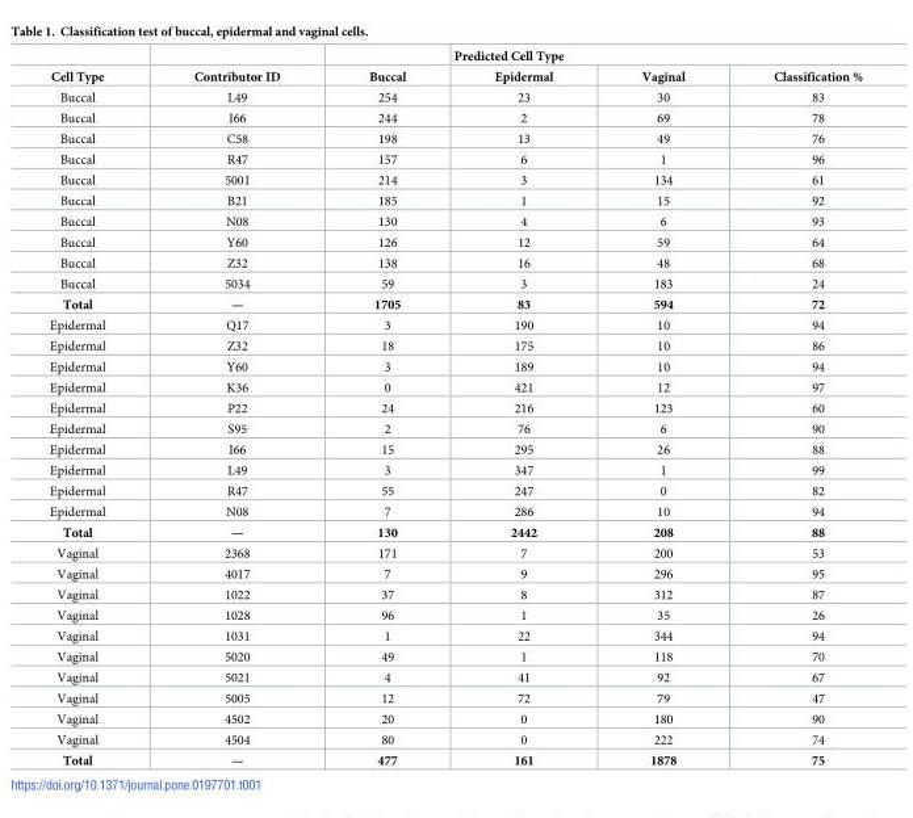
<table><thead><tr><td rowspan="2">Cell Type</td><td rowspan="2">Contributor ID</td><td rowspan="2">Buccal</td><td colspan="3">Predicted Cell Type</td></tr><tr><td>Epidermal</td><td>Vaginal</td><td>Classification %</td></tr></thead><tbody><tr><td>Buccal</td><td>L49</td><td>254</td><td>23</td><td>30</td><td>83</td></tr><tr><td>Buccal</td><td>I66</td><td>244</td><td>2</td><td>69</td><td>78</td></tr><tr><td>Buccal</td><td>C58</td><td>198</td><td>13</td><td>49</td><td>76</td></tr><tr><td>Buccal</td><td>R47</td><td>157</td><td>6</td><td>1</td><td>96</td></tr><tr><td>Buccal</td><td>5001</td><td>214</td><td>3</td><td>134</td><td>61</td></tr><tr><td>Buccal</td><td>B21</td><td>185</td><td>1</td><td>15</td><td>92</td></tr><tr><td>Buccal</td><td>N08</td><td>130</td><td>4</td><td>6</td><td>93</td></tr><tr><td>Buccal</td><td>Y60</td><td>126</td><td>12</td><td>59</td><td>64</td></tr><tr><td>Buccal</td><td>Z32</td><td>138</td><td>16</td><td>48</td><td>68</td></tr><tr><td>Buccal</td><td>5034</td><td>59</td><td>3</td><td>183</td><td>24</td></tr><tr><td>Total</td><td>—</td><td>1705</td><td>83</td><td>594</td><td>72</td></tr><tr><td>Epidermal</td><td>Q17</td><td>3</td><td>190</td><td>10</td><td>94</td></tr><tr><td>Epidermal</td><td>Z32</td><td>18</td><td>175</td><td>10</td><td>86</td></tr><tr><td>Epidermal</td><td>Y60</td><td>3</td><td>189</td><td>10</td><td>94</td></tr><tr><td>Epidermal</td><td>K36</td><td>0</td><td>421</td><td>12</td><td>97</td></tr><tr><td>Epidermal</td><td>P22</td><td>24</td><td>216</td><td>123</td><td>60</td></tr><tr><td>Epidermal</td><td>S95</td><td>2</td><td>76</td><td>6</td><td>90</td></tr><tr><td>Epidermal</td><td>I66</td><td>15</td><td>295</td><td>26</td><td>88</td></tr><tr><td>Epidermal</td><td>L49</td><td>3</td><td>347</td><td>1</td><td>99</td></tr><tr><td>Epidermal</td><td>R47</td><td>55</td><td>247</td><td>0</td><td>82</td></tr><tr><td>Epidermal</td><td>N08</td><td>7</td><td>286</td><td>10</td><td>94</td></tr><tr><td>Total</td><td>—</td><td>130</td><td>2442</td><td>208</td><td>88</td></tr><tr><td>Vaginal</td><td>2368</td><td>171</td><td>7</td><td>200</td><td>53</td></tr><tr><td>Vaginal</td><td>4017</td><td>7</td><td>9</td><td>296</td><td>95</td></tr><tr><td>Vaginal</td><td>1022</td><td>37</td><td>8</td><td>312</td><td>87</td></tr><tr><td>Vaginal</td><td>1028</td><td>96</td><td>1</td><td>35</td><td>26</td></tr><tr><td>Vaginal</td><td>1031</td><td>1</td><td>22</td><td>344</td><td>94</td></tr><tr><td>Vaginal</td><td>5020</td><td>49</td><td>1</td><td>118</td><td>70</td></tr><tr><td>Vaginal</td><td>5021</td><td>4</td><td>41</td><td>92</td><td>67</td></tr><tr><td>Vaginal</td><td>5005</td><td>12</td><td>72</td><td>79</td><td>47</td></tr><tr><td>Vaginal</td><td>4502</td><td>20</td><td>0</td><td>180</td><td>90</td></tr><tr><td>Vaginal</td><td>4504</td><td>80</td><td>0</td><td>222</td><td>74</td></tr><tr><td>Total</td><td>—</td><td>477</td><td>161</td><td>1878</td><td>75</td></tr></tbody></table>